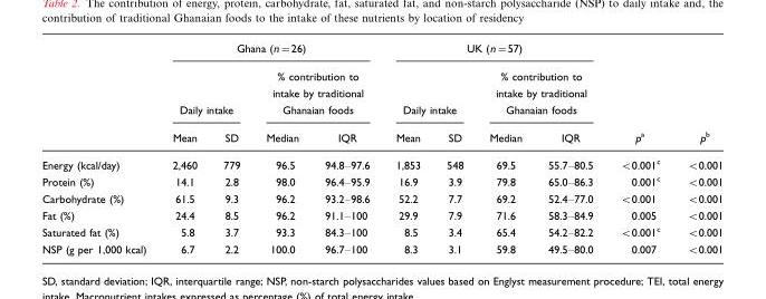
<table><thead><tr><td rowspan="3"></td><td colspan="4">Ghana (n=26)</td><td colspan="4">UK (n=57)</td><td rowspan="3">pa</td><td rowspan="3">pb</td></tr><tr><td colspan="2">Daily intake</td><td colspan="2">% contribution to intake by traditional Ghanaian foods</td><td colspan="2">Daily intake</td><td colspan="2">% contribution to intake by traditional Ghanaian foods</td></tr><tr><td>Mean</td><td>SD</td><td>Median</td><td>IQR</td><td>Mean</td><td>SD</td><td>Median</td><td>IQR</td></tr></thead><tbody><tr><td>Energy (kcal/day)</td><td>2,460</td><td>779</td><td>96.5</td><td>94.8–97.6</td><td>1,853</td><td>548</td><td>69.5</td><td>55.7–80.5</td><td>&lt;0.001<sup>c</sup></td><td>&lt;0.001</td></tr><tr><td>Protein (%)</td><td>14.1</td><td>2.8</td><td>98.0</td><td>96.4–95.9</td><td>16.9</td><td>3.9</td><td>79.8</td><td>65.0–86.3</td><td>0.001<sup>c</sup></td><td>&lt;0.001</td></tr><tr><td>Carbohydrate (%)</td><td>61.5</td><td>9.3</td><td>96.2</td><td>93.2–98.6</td><td>52.2</td><td>7.7</td><td>69.2</td><td>52.4–77.0</td><td>&lt;0.001</td><td>&lt;0.001</td></tr><tr><td>Fat (%)</td><td>24.4</td><td>8.5</td><td>96.2</td><td>91.1–100</td><td>29.9</td><td>7.9</td><td>71.6</td><td>58.3–84.9</td><td>0.005</td><td>&lt;0.001</td></tr><tr><td>Saturated fat (%)</td><td>5.8</td><td>3.7</td><td>93.3</td><td>84.3–100</td><td>8.5</td><td>3.4</td><td>65.4</td><td>54.2–82.2</td><td>&lt;0.001<sup>c</sup></td><td>&lt;0.001</td></tr><tr><td>NSP (g per 1,000 kcal)</td><td>6.7</td><td>2.2</td><td>100.0</td><td>96.7–100</td><td>8.3</td><td>3.1</td><td>59.8</td><td>49.5–80.0</td><td>0.007</td><td>&lt;0.001</td></tr></tbody></table>